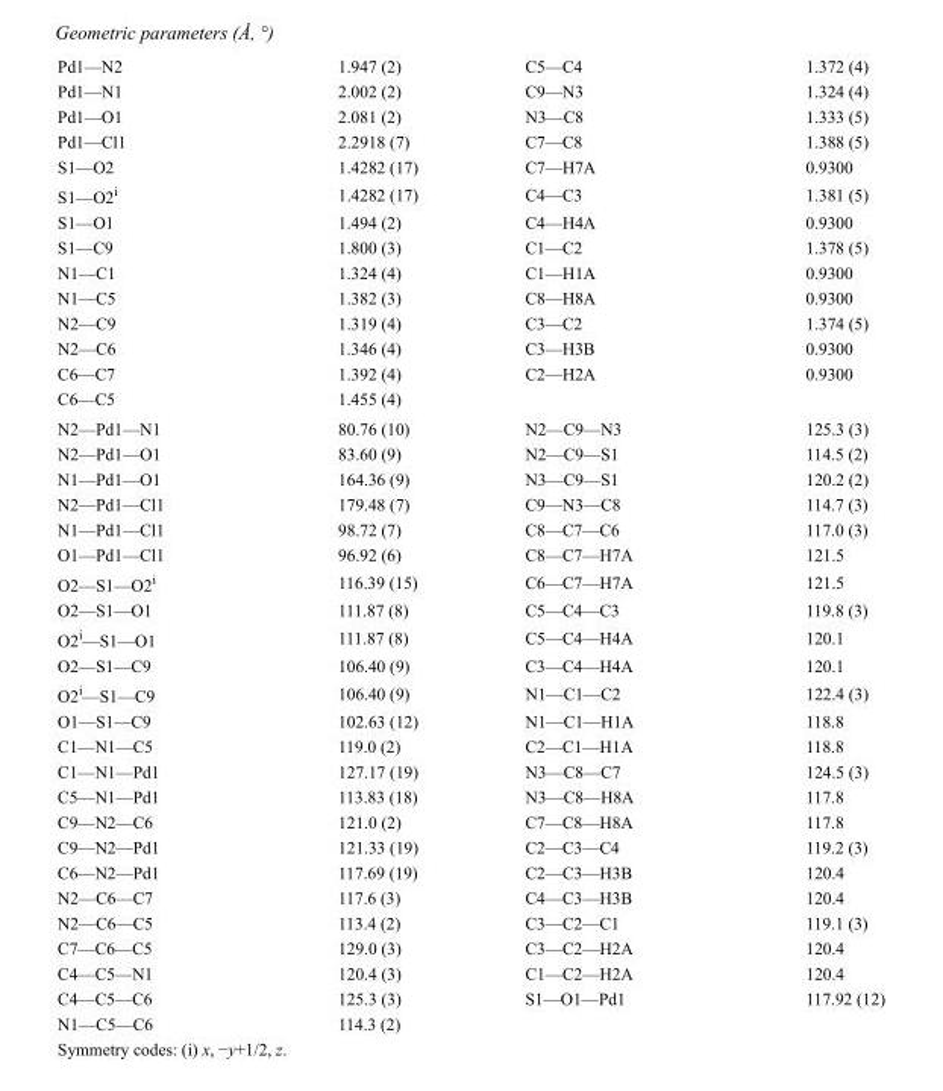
<table><tbody><tr><td>Pd1—N2</td><td>1.947 (2)</td><td>C5—C4</td><td>1.372 (4)</td></tr><tr><td>Pd1—N1</td><td>2.002 (2)</td><td>C9—N3</td><td>1.324 (4)</td></tr><tr><td>Pd1—O1</td><td>2.081 (2)</td><td>N3—C8</td><td>1.333 (5)</td></tr><tr><td>Pd1—Cl1</td><td>2.2918 (7)</td><td>C7—C8</td><td>1.388 (5)</td></tr><tr><td>S1—O2</td><td>1.4282 (17)</td><td>C7—H7A</td><td>0.9300</td></tr><tr><td>S1—O2<sup>i</sup></td><td>1.4282 (17)</td><td>C4—C3</td><td>1.381 (5)</td></tr><tr><td>S1—O1</td><td>1.494 (2)</td><td>C4—H4A</td><td>0.9300</td></tr><tr><td>S1—C9</td><td>1.800 (3)</td><td>C1—C2</td><td>1.378 (5)</td></tr><tr><td>N1—C1</td><td>1.324 (4)</td><td>C1—H1A</td><td>0.9300</td></tr><tr><td>N1—C5</td><td>1.382 (3)</td><td>C8—H8A</td><td>0.9300</td></tr><tr><td>N2—C9</td><td>1.319 (4)</td><td>C3—C2</td><td>1.374 (5)</td></tr><tr><td>N2—C6</td><td>1.346 (4)</td><td>C3—H3B</td><td>0.9300</td></tr><tr><td>C6—C7</td><td>1.392 (4)</td><td>C2—H2A</td><td>0.9300</td></tr><tr><td>C6—C5</td><td>1.455 (4)</td><td></td><td></td></tr><tr><td>N2—Pd1—N1</td><td>80.76 (10)</td><td>N2—C9—N3</td><td>125.3 (3)</td></tr><tr><td>N2—Pd1—O1</td><td>83.60 (9)</td><td>N2—C9—S1</td><td>114.5 (2)</td></tr><tr><td>N1—Pd1—O1</td><td>164.36 (9)</td><td>N3—C9—S1</td><td>120.2 (2)</td></tr><tr><td>N2—Pd1—Cl1</td><td>179.48 (7)</td><td>C9—N3—C8</td><td>114.7 (3)</td></tr><tr><td>N1—Pd1—Cl1</td><td>98.72 (7)</td><td>C8—C7—C6</td><td>117.0 (3)</td></tr><tr><td>O1—Pd1—Cl1</td><td>96.92 (6)</td><td>C8—C7—H7A</td><td>121.5</td></tr><tr><td>O2—S1—O2<sup>i</sup></td><td>116.39 (15)</td><td>C6—C7—H7A</td><td>121.5</td></tr><tr><td>O2—S1—O1</td><td>111.87 (8)</td><td>C5—C4—C3</td><td>119.8 (3)</td></tr><tr><td>O2<sup>i</sup>—S1—O1</td><td>111.87 (8)</td><td>C5—C4—H4A</td><td>120.1</td></tr><tr><td>O2—S1—C9</td><td>106.40 (9)</td><td>C3—C4—H4A</td><td>120.1</td></tr><tr><td>O2<sup>i</sup>—S1—C9</td><td>106.40 (9)</td><td>N1—C1—C2</td><td>122.4 (3)</td></tr><tr><td>O1—S1—C9</td><td>102.63 (12)</td><td>N1—C1—H1A</td><td>118.8</td></tr><tr><td>C1—N1—C5</td><td>119.0 (2)</td><td>C2—C1—H1A</td><td>118.8</td></tr><tr><td>C1—N1—Pd1</td><td>127.17 (19)</td><td>N3—C8—C7</td><td>124.5 (3)</td></tr><tr><td>C5—N1—Pd1</td><td>113.83 (18)</td><td>N3—C8—H8A</td><td>117.8</td></tr><tr><td>C9—N2—C6</td><td>121.0 (2)</td><td>C7—C8—H8A</td><td>117.8</td></tr><tr><td>C9—N2—Pd1</td><td>121.33 (19)</td><td>C2—C3—C4</td><td>119.2 (3)</td></tr><tr><td>C6—N2—Pd1</td><td>117.69 (19)</td><td>C2—C3—H3B</td><td>120.4</td></tr><tr><td>N2—C6—C7</td><td>117.6 (3)</td><td>C4—C3—H3B</td><td>120.4</td></tr><tr><td>N2—C6—C5</td><td>113.4 (2)</td><td>C3—C2—C1</td><td>119.1 (3)</td></tr><tr><td>C7—C6—C5</td><td>129.0 (3)</td><td>C3—C2—H2A</td><td>120.4</td></tr><tr><td>C4—C5—N1</td><td>120.4 (3)</td><td>C1—C2—H2A</td><td>120.4</td></tr><tr><td>C4—C5—C6</td><td>125.3 (3)</td><td>S1—O1—Pd1</td><td>117.92 (12)</td></tr><tr><td>N1—C5—C6</td><td>114.3 (2)</td><td></td><td></td></tr></tbody></table>